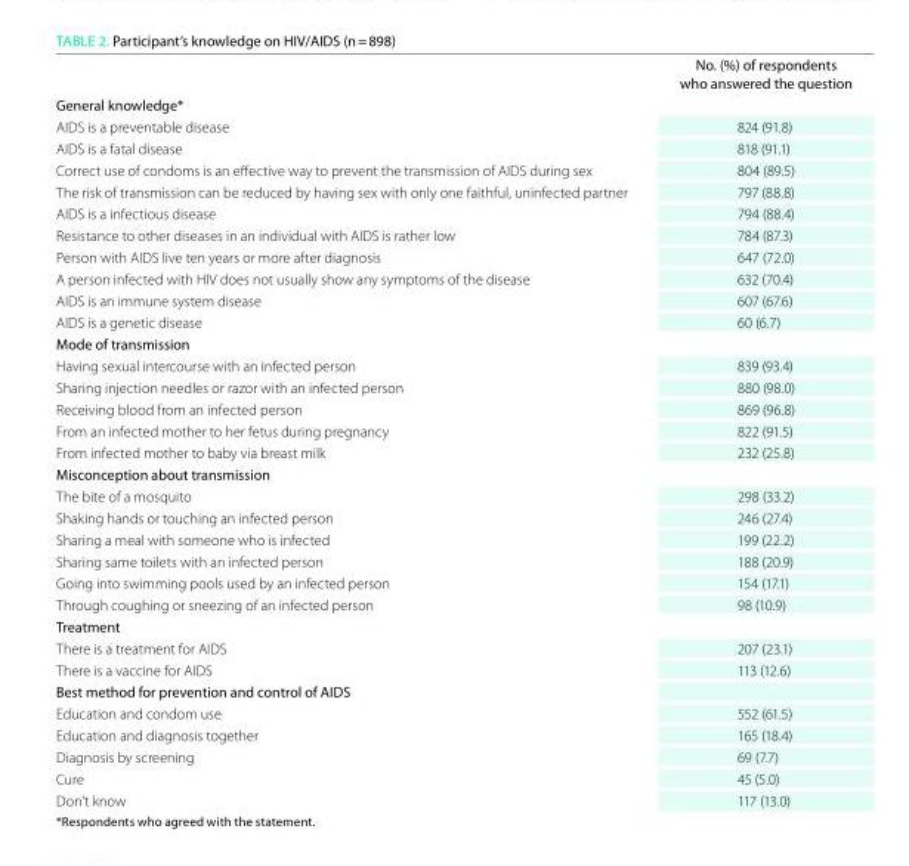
<table><thead><tr><td></td><td>No. (%) of respondents who answered the question</td></tr></thead><tbody><tr><td colspan="2">General knowledge*</td></tr><tr><td>AIDS is a preventable disease</td><td>824 (91.8)</td></tr><tr><td>AIDS is a fatal disease</td><td>818 (91.1)</td></tr><tr><td>Correct use of condoms is an effective way to prevent the transmission of AIDS during sex</td><td>804 (89.5)</td></tr><tr><td>The risk of transmission can be reduced by having sex with only one faithful, uninfected partner</td><td>797 (88.8)</td></tr><tr><td>AIDS is a infectious disease</td><td>794 (88.4)</td></tr><tr><td>Resistance to other diseases in an individual with AIDS is rather low</td><td>784 (87.3)</td></tr><tr><td>Person with AIDS live ten years or more after diagnosis</td><td>647 (72.0)</td></tr><tr><td>A person infected with HIV does not usually show any symptoms of the disease</td><td>632 (70.4)</td></tr><tr><td>AIDS is an immune system disease</td><td>607 (67.6)</td></tr><tr><td>AIDS is a genetic disease</td><td>60 (6.7)</td></tr><tr><td colspan="2">Mode of transmission</td></tr><tr><td>Having sexual intercourse with an infected person</td><td>839 (93.4)</td></tr><tr><td>Sharing injection needles or razor with an infected person</td><td>880 (98.0)</td></tr><tr><td>Receiving blood from an infected person</td><td>869 (96.8)</td></tr><tr><td>From an infected mother to her fetus during pregnancy</td><td>822 (91.5)</td></tr><tr><td>From infected mother to baby via breast milk</td><td>232 (25.8)</td></tr><tr><td colspan="2">Misconception about transmission</td></tr><tr><td>The bite of a mosquito</td><td>298 (33.2)</td></tr><tr><td>Shaking hands or touching an infected person</td><td>246 (27.4)</td></tr><tr><td>Sharing a meal with someone who is infected</td><td>199 (22.2)</td></tr><tr><td>Sharing same toilets with an infected person</td><td>188 (20.9)</td></tr><tr><td>Going into swimming pools used by an infected person</td><td>154 (17.1)</td></tr><tr><td>Through coughing or sneezing of an infected person</td><td>98 (10.9)</td></tr><tr><td colspan="2">treatment</td></tr><tr><td>There is a treatment for AIDS</td><td>207 (23.1)</td></tr><tr><td>There is a vaccine for AIDS</td><td>113 (12.6)</td></tr><tr><td colspan="2">best method for prevention and control of AIds</td></tr><tr><td>Education and condom use</td><td>552 (61.5)</td></tr><tr><td>Education and diagnosis together</td><td>165 (18.4)</td></tr><tr><td>Diagnosis by screening</td><td>69 (7.7)</td></tr><tr><td>Cure</td><td>45 (5.0)</td></tr><tr><td>Don’t know</td><td>117 (13.0)</td></tr></tbody></table>